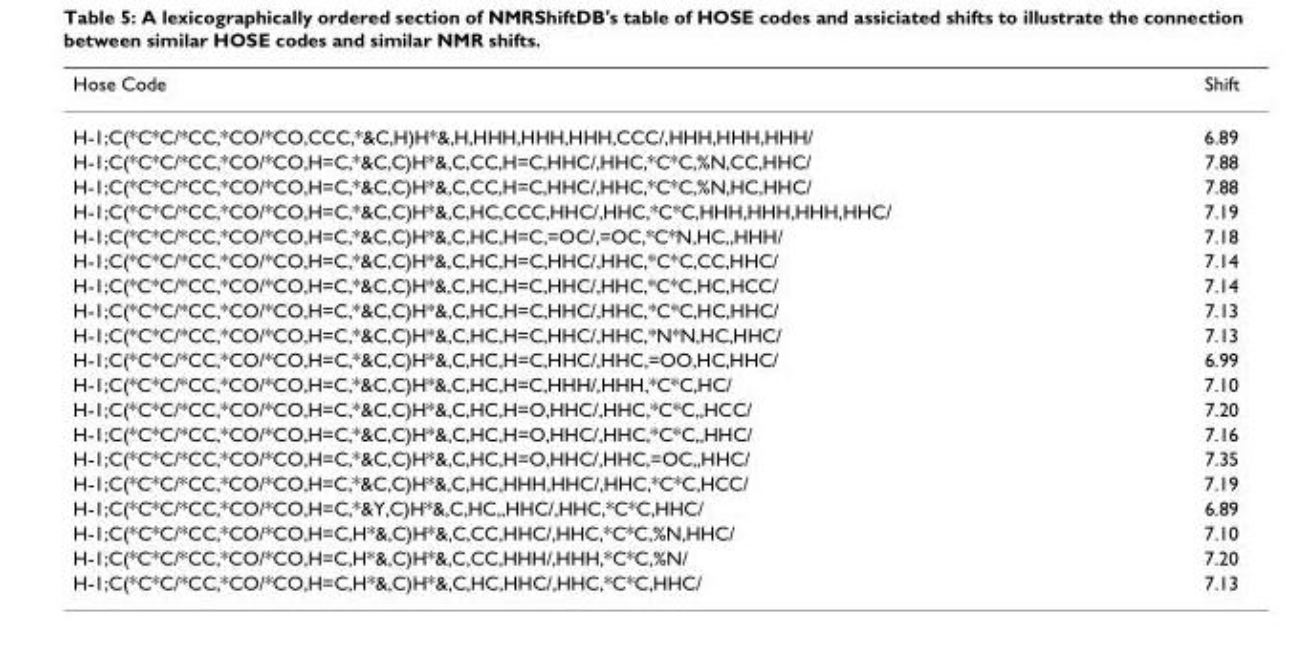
<table><thead><tr><td>Hose Code</td><td>Shift</td></tr></thead><tbody><tr><td>H-1;C(*C*C/*CC,*CO/*CO,CCC,*&amp;C,H)H*&amp;,H,HHH,HHH,HHH,CCC/,HHH,HHH,HHH/</td><td>6.89</td></tr><tr><td>H-1;C(*C*C/*CC,*CO/*CO,H=C,*&amp;C,C)H*&amp;,C,CC,H=C,HHC/,HHC,*C*C,%N,CC,HHC/</td><td>7.88</td></tr><tr><td>H-1;C(*C*C/*CC,*CO/*CO,H=C,*&amp;C,C)H*&amp;,C,CC,H=C,HHC/,HHC,*C*C,%N,HC,HHC/</td><td>7.88</td></tr><tr><td>H-1;C(*C*C/*CC,*CO/*CO,H=C,*&amp;C,C)H*&amp;,C,HC,CCC,HHC/,HHC,*C*C,HHH,HHH,HHH,HHC/</td><td>7.19</td></tr><tr><td>H-1;C(*C*C/*CC,*CO/*CO,H=C,*&amp;C,C)H*&amp;,C,HC,H=C,=OC/,=OC,*C*N,HC,,HHH/</td><td>7.18</td></tr><tr><td>H-1;C(*C*C/*CC,*CO/*CO,H=C,*&amp;C,C)H*&amp;,C,HC,H=C,HHC/,HHC,*C*C,CC,HHC/</td><td>7.14</td></tr><tr><td>H-1;C(*C*C/*CC,*CO/*CO,H=C,*&amp;C,C)H*&amp;,C,HC,H=C,HHC/,HHC,*C*C,HC,HCC/</td><td>7.14</td></tr><tr><td>H-1;C(*C*C/*CC,*CO/*CO,H=C,*&amp;C,C)H*&amp;,C,HC,H=C,HHC/,HHC,*C*C,HC,HHC/</td><td>7.13</td></tr><tr><td>H-1;C(*C*C/*CC,*CO/*CO,H=C,*&amp;C,C)H*&amp;,C,HC,H=C,HHC/,HHC,*N*N,HC,HHC/</td><td>7.13</td></tr><tr><td>H-1;C(*C*C/*CC,*CO/*CO,H=C,*&amp;C,C)H*&amp;,C,HC,H=C,HHC/,HHC,=OO,HC,HHC/</td><td>6.99</td></tr><tr><td>H-1;C(*C*C/*CC,*CO/*CO,H=C,*&amp;C,C)H*&amp;,C,HC,H=C,HHH/,HHH,*C*C,HC/</td><td>7.10</td></tr><tr><td>H-1;C(*C*C/*CC,*CO/*CO,H=C,*&amp;C,C)H*&amp;,C,HC,H=O,HHC/,HHC,*C*C,,HCC/</td><td>7.20</td></tr><tr><td>H-1;C(*C*C/*CC,*CO/*CO,H=C,*&amp;C,C)H*&amp;,C,HC,H=O,HHC/,HHC,*C*C,,HHC/</td><td>7.16</td></tr><tr><td>H-1;C(*C*C/*CC,*CO/*CO,H=C,*&amp;C,C)H*&amp;,C,HC,H=O,HHC/,HHC,=OC,,HHC/</td><td>7.35</td></tr><tr><td>H-1;C(*C*C/*CC,*CO/*CO,H=C,*&amp;C,C)H*&amp;,C,HC,HHH,HHC/,HHC,*C*C,HCC/</td><td>7.19</td></tr><tr><td>H-1;C(*C*C/*CC,*CO/*CO,H=C,*&amp;Y,C)H*&amp;,C,HC,,HHC/,HHC,*C*C,HHC/</td><td>6.89</td></tr><tr><td>H-1;C(*C*C/*CC,*CO/*CO,H=C,H*&amp;,C)H*&amp;,C,CC,HHC/,HHC,*C*C,%N,HHC/</td><td>7.10</td></tr><tr><td>H-1;C(*C*C/*CC,*CO/*CO,H=C,H*&amp;,C)H*&amp;,C,CC,HHH/,HHH,*C*C,%N/</td><td>7.20</td></tr><tr><td>H-1;C(*C*C/*CC,*CO/*CO,H=C,H*&amp;,C)H*&amp;,C,HC,HHC/,HHC,*C*C,HHC/</td><td>7.13</td></tr></tbody></table>